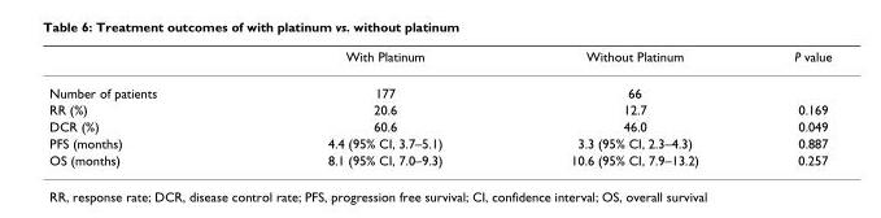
<table><thead><tr><td></td><td>With Platinum</td><td>Without Platinum</td><td>P value</td></tr></thead><tbody><tr><td>Number of patients</td><td>177</td><td>66</td><td></td></tr><tr><td>RR (%)</td><td>20.6</td><td>12.7</td><td>0.169</td></tr><tr><td>DCR (%)</td><td>60.6</td><td>46.0</td><td>0.049</td></tr><tr><td>PFS (months)</td><td>4.4 (95% CI, 3.7–5.1)</td><td>3.3 (95% CI, 2.3–4.3)</td><td>0.887</td></tr><tr><td>OS (months)</td><td>8.1 (95% CI, 7.0–9.3)</td><td>10.6 (95% CI, 7.9–13.2)</td><td>0.257</td></tr></tbody></table>